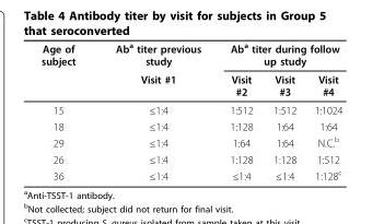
<table><thead><tr><td rowspan="2">Age of subject</td><td rowspan="2">Ab<sup>a</sup> titer previous study Visit #1</td><td colspan="3">Ab<sup>a</sup> titer during follow up study</td></tr><tr><td>Visit #2</td><td>Visit #3</td><td>Visit #4</td></tr></thead><tbody><tr><td>15</td><td>≤1:4</td><td>1:512</td><td>1:512</td><td>1:1024</td></tr><tr><td>18</td><td>≤1:4</td><td>1:128</td><td>1:64</td><td>1:64</td></tr><tr><td>29</td><td>≤1:4</td><td>1:64</td><td>1:64</td><td>N.C.<sup>b</sup></td></tr><tr><td>26</td><td>≤1:4</td><td>1:128</td><td>1:128</td><td>1:512</td></tr><tr><td>36</td><td>≤1:4</td><td>≤1:4</td><td>≤1:4</td><td>1:128<sup>c</sup></td></tr></tbody></table>